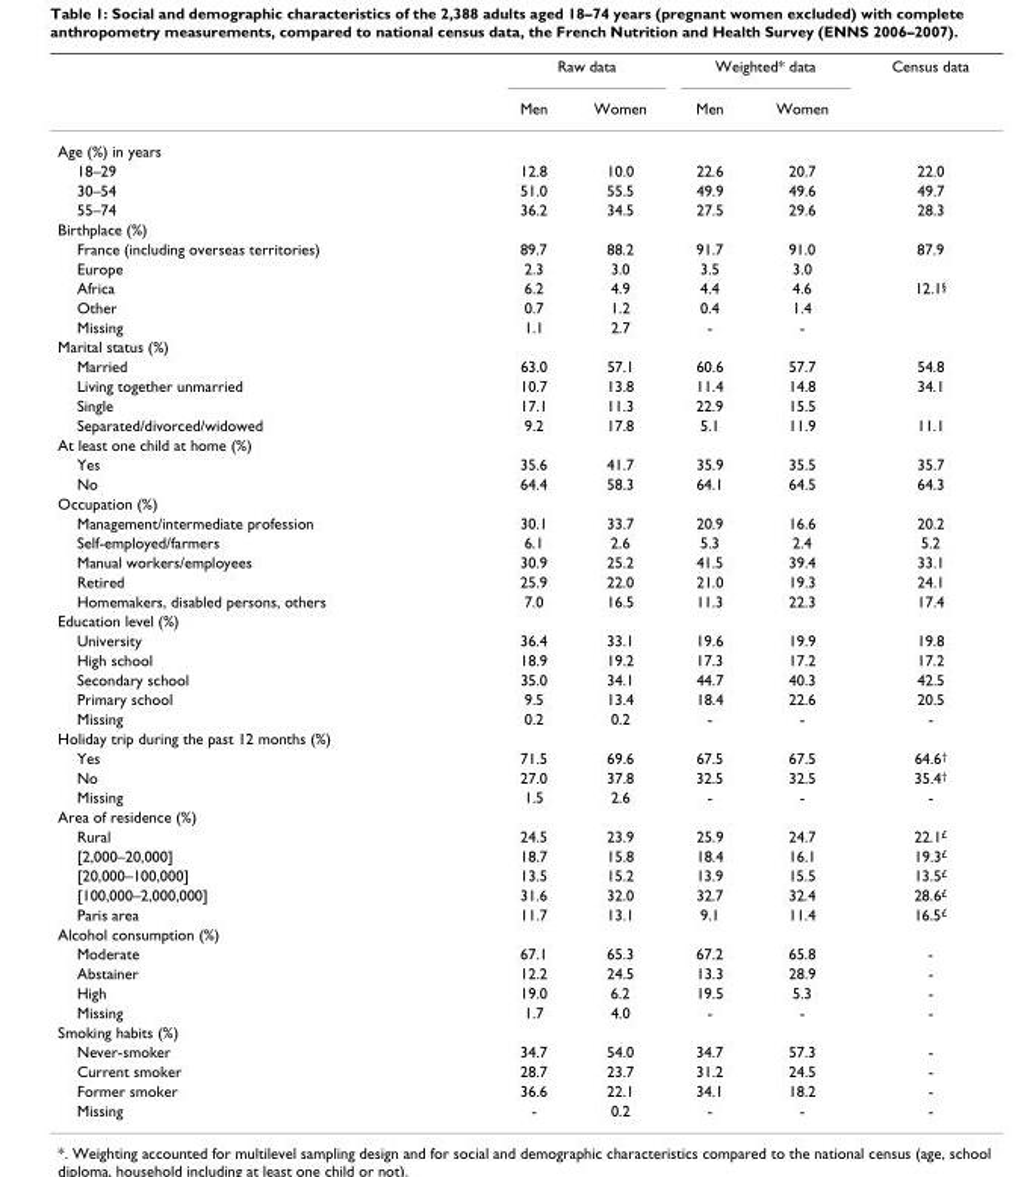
<table><thead><tr><td rowspan="2"></td><td colspan="2">Raw data</td><td colspan="2">Weighted* data</td><td rowspan="2">Census data</td></tr><tr><td>Men</td><td>Women</td><td>Men</td><td>Women</td></tr></thead><tbody><tr><td colspan="6">Age (%) in years</td></tr><tr><td>18–29</td><td>12.8</td><td>10.0</td><td>22.6</td><td>20.7</td><td>22.0</td></tr><tr><td>30–54</td><td>51.0</td><td>55.5</td><td>49.9</td><td>49.6</td><td>49.7</td></tr><tr><td>55–74</td><td>36.2</td><td>34.5</td><td>27.5</td><td>29.6</td><td>28.3</td></tr><tr><td colspan="6">Birthplace (%)</td></tr><tr><td>France (including overseas territories)</td><td>89.7</td><td>88.2</td><td>91.7</td><td>91.0</td><td>87.9</td></tr><tr><td>Europe</td><td>2.3</td><td>3.0</td><td>3.5</td><td>3.0</td><td></td></tr><tr><td>Africa</td><td>6.2</td><td>4.9</td><td>4.4</td><td>4.6</td><td>12.1<sup>§</sup></td></tr><tr><td>Other</td><td>0.7</td><td>1.2</td><td>0.4</td><td>1.4</td><td></td></tr><tr><td>Missing</td><td>1.1</td><td>2.7</td><td>-</td><td>-</td><td></td></tr><tr><td colspan="6">Marital status (%)</td></tr><tr><td>Married</td><td>63.0</td><td>57.1</td><td>60.6</td><td>57.7</td><td>54.8</td></tr><tr><td>Living together unmarried</td><td>10.7</td><td>13.8</td><td>11.4</td><td>14.8</td><td>34.1</td></tr><tr><td>Single</td><td>17.1</td><td>11.3</td><td>22.9</td><td>15.5</td><td></td></tr><tr><td>Separated/divorced/widowed</td><td>9.2</td><td>17.8</td><td>5.1</td><td>11.9</td><td>11.1</td></tr><tr><td colspan="6">At least one child at home (%)</td></tr><tr><td>Yes</td><td>35.6</td><td>41.7</td><td>35.9</td><td>35.5</td><td>35.7</td></tr><tr><td>No</td><td>64.4</td><td>58.3</td><td>64.1</td><td>64.5</td><td>64.3</td></tr><tr><td colspan="6">Occupation (%)</td></tr><tr><td>Management/intermediate profession</td><td>30.1</td><td>33.7</td><td>20.9</td><td>16.6</td><td>20.2</td></tr><tr><td>Self-employed/farmers</td><td>6.1</td><td>2.6</td><td>5.3</td><td>2.4</td><td>5.2</td></tr><tr><td>Manual workers/employees</td><td>30.9</td><td>25.2</td><td>41.5</td><td>39.4</td><td>33.1</td></tr><tr><td>Retired</td><td>25.9</td><td>22.0</td><td>21.0</td><td>19.3</td><td>24.1</td></tr><tr><td>Homemakers, disabled persons, others</td><td>7.0</td><td>16.5</td><td>11.3</td><td>22.3</td><td>17.4</td></tr><tr><td colspan="6">Education level (%)</td></tr><tr><td>University</td><td>36.4</td><td>33.1</td><td>19.6</td><td>19.9</td><td>19.8</td></tr><tr><td>High school</td><td>18.9</td><td>19.2</td><td>17.3</td><td>17.2</td><td>17.2</td></tr><tr><td>Secondary school</td><td>35.0</td><td>34.1</td><td>44.7</td><td>40.3</td><td>42.5</td></tr><tr><td>Primary school</td><td>9.5</td><td>13.4</td><td>18.4</td><td>22.6</td><td>20.5</td></tr><tr><td>Missing</td><td>0.2</td><td>0.2</td><td>-</td><td>-</td><td>-</td></tr><tr><td colspan="6">Holiday trip during the past 12 months (%)</td></tr><tr><td>Yes</td><td>71.5</td><td>69.6</td><td>67.5</td><td>67.5</td><td>64.6<sup>†</sup></td></tr><tr><td>No</td><td>27.0</td><td>37.8</td><td>32.5</td><td>32.5</td><td>35.4<sup>†</sup></td></tr><tr><td>Missing</td><td>1.5</td><td>2.6</td><td>-</td><td>-</td><td>-</td></tr><tr><td colspan="6">Area of residence (%)</td></tr><tr><td>Rural</td><td>24.5</td><td>23.9</td><td>25.9</td><td>24.7</td><td>22.1<sup>£</sup></td></tr><tr><td>[2,000–20,000]</td><td>18.7</td><td>15.8</td><td>18.4</td><td>16.1</td><td>19.3<sup>£</sup></td></tr><tr><td>[20,000–100,000]</td><td>13.5</td><td>15.2</td><td>13.9</td><td>15.5</td><td>13.5<sup>£</sup></td></tr><tr><td>[100,000–2,000,000]</td><td>31.6</td><td>32.0</td><td>32.7</td><td>32.4</td><td>28.6<sup>£</sup></td></tr><tr><td>Paris area</td><td>11.7</td><td>13.1</td><td>9.1</td><td>11.4</td><td>16.5<sup>£</sup></td></tr><tr><td colspan="6">Alcohol consumption (%)</td></tr><tr><td>Moderate</td><td>67.1</td><td>65.3</td><td>67.2</td><td>65.8</td><td>-</td></tr><tr><td>Abstainer</td><td>12.2</td><td>24.5</td><td>13.3</td><td>28.9</td><td>-</td></tr><tr><td>High</td><td>19.0</td><td>6.2</td><td>19.5</td><td>5.3</td><td>-</td></tr><tr><td>Missing</td><td>1.7</td><td>4.0</td><td>-</td><td>-</td><td>-</td></tr><tr><td colspan="6">Smoking habits (%)</td></tr><tr><td>Never-smoker</td><td>34.7</td><td>54.0</td><td>34.7</td><td>57.3</td><td>-</td></tr><tr><td>Current smoker</td><td>28.7</td><td>23.7</td><td>31.2</td><td>24.5</td><td>-</td></tr><tr><td>Former smoker</td><td>36.6</td><td>22.1</td><td>34.1</td><td>18.2</td><td>-</td></tr><tr><td>Missing</td><td>-</td><td>0.2</td><td>-</td><td>-</td><td>-</td></tr></tbody></table>